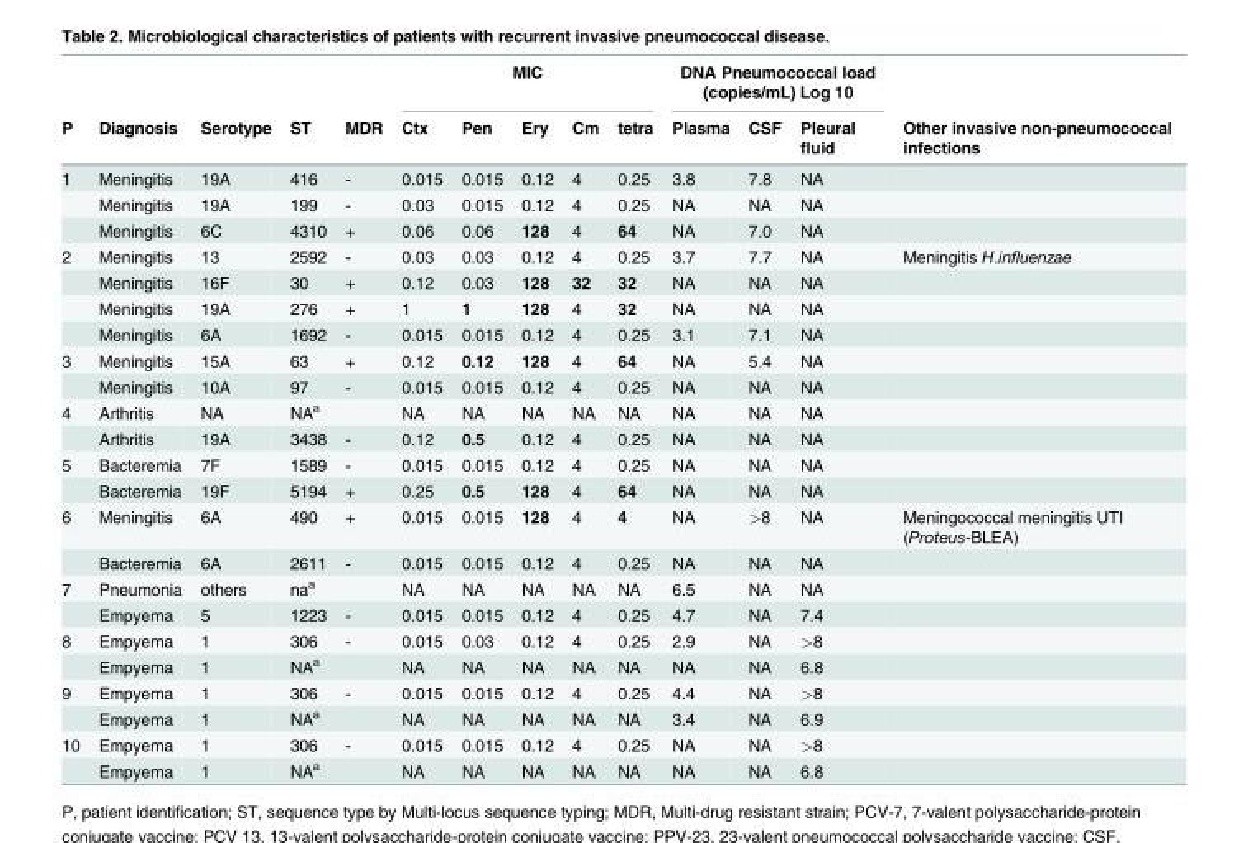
<table><thead><tr><td rowspan="2">P</td><td rowspan="2">Diagnosis</td><td rowspan="2">Serotype</td><td rowspan="2">ST</td><td rowspan="2">MDR</td><td colspan="5">MIC</td><td colspan="3">DNA Pneumococcal load (copies/mL) Log 10</td><td rowspan="2">Other invasive non-pneumococcal infections</td></tr><tr><td>Ctx</td><td>Pen</td><td>Ery</td><td>Cm</td><td>tetra</td><td>Plasma</td><td>CSF</td><td>Pleural fluid</td></tr></thead><tbody><tr><td rowspan="3">1</td><td>Meningitis</td><td>19A</td><td>416</td><td>-</td><td>0.015</td><td>0.015</td><td>0.12</td><td>4</td><td>0.25</td><td>3.8</td><td>7.8</td><td>NA</td><td></td></tr><tr><td>Meningitis</td><td>19A</td><td>199</td><td>-</td><td>0.03</td><td>0.015</td><td>0.12</td><td>4</td><td>0.25</td><td>NA</td><td>NA</td><td>NA</td><td></td></tr><tr><td>Meningitis</td><td>6C</td><td>4310</td><td>+</td><td>0.06</td><td>0.06</td><td>128</td><td>4</td><td>64</td><td>NA</td><td>7.0</td><td>NA</td><td></td></tr><tr><td rowspan="4">2</td><td>Meningitis</td><td>13</td><td>2592</td><td>-</td><td>0.03</td><td>0.03</td><td>0.12</td><td>4</td><td>0.25</td><td>3.7</td><td>7.7</td><td>NA</td><td>Meningitis H.influenzae</td></tr><tr><td>Meningitis</td><td>16F</td><td>30</td><td>+</td><td>0.12</td><td>0.03</td><td>128</td><td>32</td><td>32</td><td>NA</td><td>NA</td><td>NA</td><td></td></tr><tr><td>Meningitis</td><td>19A</td><td>276</td><td>+</td><td>1</td><td>1</td><td>128</td><td>4</td><td>32</td><td>NA</td><td>NA</td><td>NA</td><td></td></tr><tr><td>Meningitis</td><td>6A</td><td>1692</td><td>-</td><td>0.015</td><td>0.015</td><td>0.12</td><td>4</td><td>0.25</td><td>3.1</td><td>7.1</td><td>NA</td><td></td></tr><tr><td rowspan="2">3</td><td>Meningitis</td><td>15A</td><td>63</td><td>+</td><td>0.12</td><td>0.12</td><td>128</td><td>4</td><td>64</td><td>NA</td><td>5.4</td><td>NA</td><td></td></tr><tr><td>Meningitis</td><td>10A</td><td>97</td><td>-</td><td>0.015</td><td>0.015</td><td>0.12</td><td>4</td><td>0.25</td><td>NA</td><td>NA</td><td>NA</td><td></td></tr><tr><td rowspan="2">4</td><td>Arthritis</td><td>NA</td><td>NA<sup>a</sup></td><td></td><td>NA</td><td>NA</td><td>NA</td><td>NA</td><td>NA</td><td>NA</td><td>NA</td><td>NA</td><td></td></tr><tr><td>Arthritis</td><td>19A</td><td>3438</td><td>-</td><td>0.12</td><td>0.5</td><td>0.12</td><td>4</td><td>0.25</td><td>NA</td><td>NA</td><td>NA</td><td></td></tr><tr><td rowspan="2">5</td><td>Bacteremia</td><td>7F</td><td>1589</td><td>-</td><td>0.015</td><td>0.015</td><td>0.12</td><td>4</td><td>0.25</td><td>NA</td><td>NA</td><td>NA</td><td></td></tr><tr><td>Bacteremia</td><td>19F</td><td>5194</td><td>+</td><td>0.25</td><td>0.5</td><td>128</td><td>4</td><td>64</td><td>NA</td><td>NA</td><td>NA</td><td></td></tr><tr><td rowspan="2">6</td><td>Meningitis</td><td>6A</td><td>490</td><td>+</td><td>0.015</td><td>0.015</td><td>128</td><td>4</td><td>4</td><td>NA</td><td>&gt;8</td><td>NA</td><td>Meningococcal meningitis UTI (Proteus-BLEA)</td></tr><tr><td>Bacteremia</td><td>6A</td><td>2611</td><td>-</td><td>0.015</td><td>0.015</td><td>0.12</td><td>4</td><td>0.25</td><td>NA</td><td>NA</td><td>NA</td><td></td></tr><tr><td rowspan="2">7</td><td>Pneumonia</td><td>others</td><td>na<sup>a</sup></td><td></td><td>NA</td><td>NA</td><td>NA</td><td>NA</td><td>NA</td><td>6.5</td><td>NA</td><td>NA</td><td></td></tr><tr><td>Empyema</td><td>5</td><td>1223</td><td>-</td><td>0.015</td><td>0.015</td><td>0.12</td><td>4</td><td>0.25</td><td>4.7</td><td>NA</td><td>7.4</td><td></td></tr><tr><td rowspan="2">8</td><td>Empyema</td><td>1</td><td>306</td><td>-</td><td>0.015</td><td>0.03</td><td>0.12</td><td>4</td><td>0.25</td><td>2.9</td><td>NA</td><td>&gt;8</td><td></td></tr><tr><td>Empyema</td><td>1</td><td>NA<sup>a</sup></td><td></td><td>NA</td><td>NA</td><td>NA</td><td>NA</td><td>NA</td><td>NA</td><td>NA</td><td>6.8</td><td></td></tr><tr><td rowspan="2">9</td><td>Empyema</td><td>1</td><td>306</td><td>-</td><td>0.015</td><td>0.015</td><td>0.12</td><td>4</td><td>0.25</td><td>4.4</td><td>NA</td><td>&gt;8</td><td></td></tr><tr><td>Empyema</td><td>1</td><td>NA<sup>a</sup></td><td></td><td>NA</td><td>NA</td><td>NA</td><td>NA</td><td>NA</td><td>3.4</td><td>NA</td><td>6.9</td><td></td></tr><tr><td rowspan="2">10</td><td>Empyema</td><td>1</td><td>306</td><td>-</td><td>0.015</td><td>0.015</td><td>0.12</td><td>4</td><td>0.25</td><td>NA</td><td>NA</td><td>&gt;8</td><td></td></tr><tr><td>Empyema</td><td>1</td><td>NA<sup>a</sup></td><td></td><td>NA</td><td>NA</td><td>NA</td><td>NA</td><td>NA</td><td>NA</td><td>NA</td><td>6.8</td><td></td></tr></tbody></table>